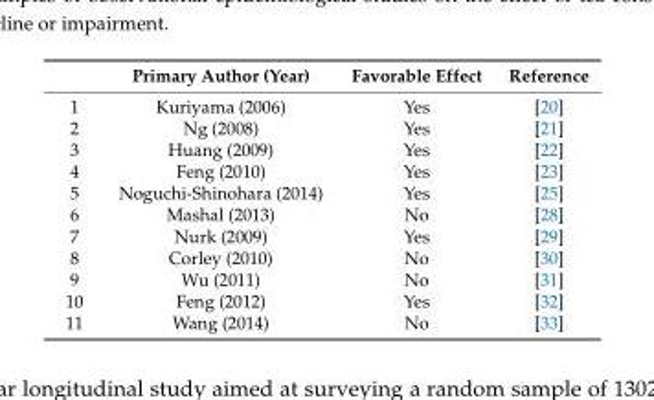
<table><thead><tr><td></td><td>Primary Author (Year)</td><td>Favorable Effect</td><td>Reference</td></tr></thead><tbody><tr><td>1</td><td>Kuriyama (2006)</td><td>Yes</td><td>[20]</td></tr><tr><td>2</td><td>Ng (2008)</td><td>Yes</td><td>[21]</td></tr><tr><td>3</td><td>Huang (2009)</td><td>Yes</td><td>[22]</td></tr><tr><td>4</td><td>Feng (2010)</td><td>Yes</td><td>[23]</td></tr><tr><td>5</td><td>Noguchi-Shinohara (2014)</td><td>Yes</td><td>[25]</td></tr><tr><td>6</td><td>Mashal (2013)</td><td>No</td><td>[28]</td></tr><tr><td>7</td><td>Nurk (2009)</td><td>Yes</td><td>[29]</td></tr><tr><td>8</td><td>Corley (2010)</td><td>No</td><td>[30]</td></tr><tr><td>9</td><td>Wu (2011)</td><td>No</td><td>[31]</td></tr><tr><td>10</td><td>Feng (2012)</td><td>Yes</td><td>[32]</td></tr><tr><td>11</td><td>Wang (2014)</td><td>No</td><td>[33]</td></tr></tbody></table>